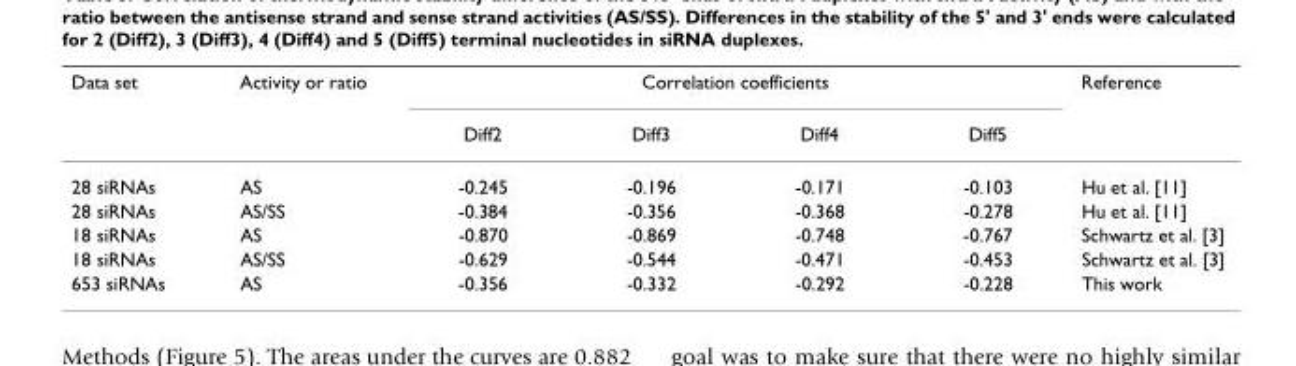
<table><thead><tr><td rowspan="2">Data set</td><td rowspan="2">Activity or ratio</td><td colspan="4">Correlation coefficients</td><td rowspan="2">Reference</td></tr><tr><td>Diff2</td><td>Diff3</td><td>Diff4</td><td>Diff5</td></tr></thead><tbody><tr><td>28 siRNAs</td><td>AS</td><td>-0.245</td><td>-0.196</td><td>-0.171</td><td>-0.103</td><td>Hu et al. [11]</td></tr><tr><td>28 siRNAs</td><td>AS/SS</td><td>-0.384</td><td>-0.356</td><td>-0.368</td><td>-0.278</td><td>Hu et al. [11]</td></tr><tr><td>18 siRNAs</td><td>AS</td><td>-0.870</td><td>-0.869</td><td>-0.748</td><td>-0.767</td><td>Schwartz et al. [3]</td></tr><tr><td>18 siRNAs</td><td>AS/SS</td><td>-0.629</td><td>-0.544</td><td>-0.471</td><td>-0.453</td><td>Schwartz et al. [3]</td></tr><tr><td>653 siRNAs</td><td>AS</td><td>-0.356</td><td>-0.332</td><td>-0.292</td><td>-0.228</td><td>This work</td></tr></tbody></table>